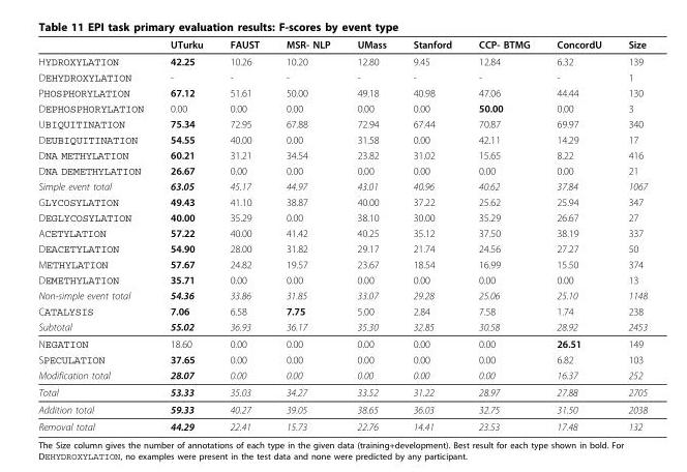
<table><thead><tr><td></td><td>UTurku</td><td>FAUST</td><td>MSR- NLP</td><td>UMass</td><td>Stanford</td><td>CCP- BTMG</td><td>ConcordU</td><td>Size</td></tr></thead><tbody><tr><td>HYDROXYLATION</td><td>42.25</td><td>10.26</td><td>10.20</td><td>12.80</td><td>9.45</td><td>12.84</td><td>6.32</td><td>139</td></tr><tr><td>DEHYDROXYLATION</td><td>-</td><td>-</td><td>-</td><td>-</td><td>-</td><td>-</td><td>-</td><td>1</td></tr><tr><td>PHOSPHORYLATION</td><td>67.12</td><td>51.61</td><td>50.00</td><td>49.18</td><td>40.98</td><td>47.06</td><td>44.44</td><td>130</td></tr><tr><td>DEPHOSPHORYLATION</td><td>0.00</td><td>0.00</td><td>0.00</td><td>0.00</td><td>0.00</td><td>50.00</td><td>0.00</td><td>3</td></tr><tr><td>UBIQUITINATION</td><td>75.34</td><td>72.95</td><td>67.88</td><td>72.94</td><td>67.44</td><td>70.87</td><td>69.97</td><td>340</td></tr><tr><td>DEUBIQUITINATION</td><td>54.55</td><td>40.00</td><td>0.00</td><td>31.58</td><td>0.00</td><td>42.11</td><td>14.29</td><td>17</td></tr><tr><td>DNA METHYLATION</td><td>60.21</td><td>31.21</td><td>34.54</td><td>23.82</td><td>31.02</td><td>15.65</td><td>8.22</td><td>416</td></tr><tr><td>DNA DEMETHYLATION</td><td>26.67</td><td>0.00</td><td>0.00</td><td>0.00</td><td>0.00</td><td>0.00</td><td>0.00</td><td>21</td></tr><tr><td>Simple event total</td><td>63.05</td><td>45.17</td><td>44.97</td><td>43.01</td><td>40.96</td><td>40.62</td><td>37.84</td><td>1067</td></tr><tr><td>GLYCOSYLATION</td><td>49.43</td><td>41.10</td><td>38.87</td><td>40.00</td><td>37.22</td><td>25.62</td><td>25.94</td><td>347</td></tr><tr><td>DEGLYCOSYLATION</td><td>40.00</td><td>35.29</td><td>0.00</td><td>38.10</td><td>30.00</td><td>35.29</td><td>26.67</td><td>27</td></tr><tr><td>ACETYLATION</td><td>57.22</td><td>40.00</td><td>41.42</td><td>40.25</td><td>35.12</td><td>37.50</td><td>38.19</td><td>337</td></tr><tr><td>DEACETYLATION</td><td>54.90</td><td>28.00</td><td>31.82</td><td>29.17</td><td>21.74</td><td>24.56</td><td>27.27</td><td>50</td></tr><tr><td>METHYLATION</td><td>57.67</td><td>24.82</td><td>19.57</td><td>23.67</td><td>18.54</td><td>16.99</td><td>15.50</td><td>374</td></tr><tr><td>DEMETHYLATION</td><td>35.71</td><td>0.00</td><td>0.00</td><td>0.00</td><td>0.00</td><td>0.00</td><td>0.00</td><td>13</td></tr><tr><td>Non-simple event total</td><td>54.36</td><td>33.86</td><td>31.85</td><td>33.07</td><td>29.28</td><td>25.06</td><td>25.10</td><td>1148</td></tr><tr><td>CATALYSIS</td><td>7.06</td><td>6.58</td><td>7.75</td><td>5.00</td><td>2.84</td><td>7.58</td><td>1.74</td><td>238</td></tr><tr><td>Subtotal</td><td>55.02</td><td>36.93</td><td>36.17</td><td>35.30</td><td>32.85</td><td>30.58</td><td>28.92</td><td>2453</td></tr><tr><td>NEGATION</td><td>18.60</td><td>0.00</td><td>0.00</td><td>0.00</td><td>0.00</td><td>0.00</td><td>26.51</td><td>149</td></tr><tr><td>SPECULATION</td><td>37.65</td><td>0.00</td><td>0.00</td><td>0.00</td><td>0.00</td><td>0.00</td><td>6.82</td><td>103</td></tr><tr><td>Modification total</td><td>28.07</td><td>0.00</td><td>0.00</td><td>0.00</td><td>0.00</td><td>0.00</td><td>16.37</td><td>252</td></tr><tr><td>Total</td><td>53.33</td><td>35.03</td><td>34.27</td><td>33.52</td><td>31.22</td><td>28.97</td><td>27.88</td><td>2705</td></tr><tr><td>Addition total</td><td>59.33</td><td>40.27</td><td>39.05</td><td>38.65</td><td>36.03</td><td>32.75</td><td>31.50</td><td>2038</td></tr><tr><td>Removal total</td><td>44.29</td><td>22.41</td><td>15.73</td><td>22.76</td><td>14.41</td><td>23.53</td><td>17.48</td><td>132</td></tr></tbody></table>